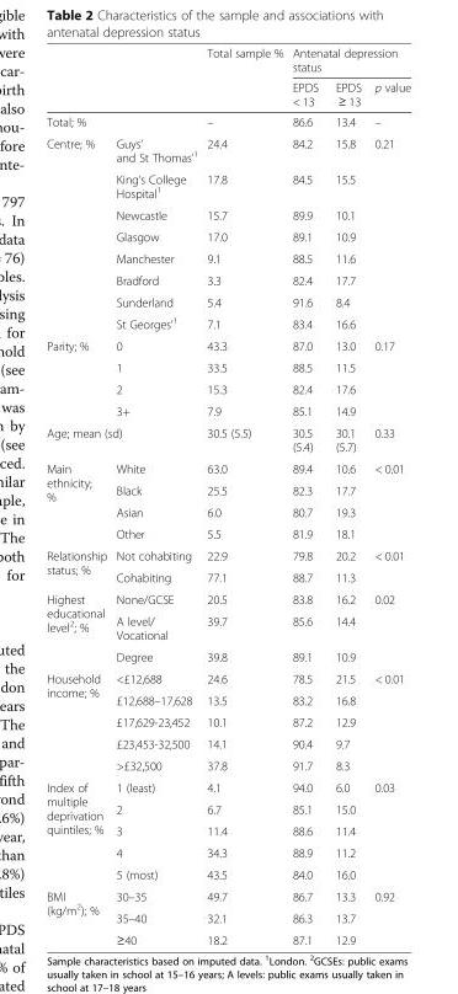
<table><thead><tr><td rowspan="2"></td><td rowspan="2"></td><td rowspan="2">Total sample %</td><td colspan="3">Antenatal depression status</td></tr><tr><td>EPDS &lt; 13</td><td>EPDS ≥ 13</td><td>p value</td></tr></thead><tbody><tr><td colspan="2">Total; %</td><td>–</td><td>86.6</td><td>13.4</td><td>–</td></tr><tr><td rowspan="8">Centre; %</td><td>Guys’ and St Thomas’<sup>1</sup></td><td>24.4</td><td>84.2</td><td>15.8</td><td rowspan="8">0.21</td></tr><tr><td>King’s College Hospital<sup>1</sup></td><td>17.8</td><td>84.5</td><td>15.5</td></tr><tr><td>Newcastle</td><td>15.7</td><td>89.9</td><td>10.1</td></tr><tr><td>Glasgow</td><td>17.0</td><td>89.1</td><td>10.9</td></tr><tr><td>Manchester</td><td>9.1</td><td>88.5</td><td>11.6</td></tr><tr><td>Bradford</td><td>3.3</td><td>82.4</td><td>17.7</td></tr><tr><td>Sunderland</td><td>5.4</td><td>91.6</td><td>8.4</td></tr><tr><td>St Georges’<sup>1</sup></td><td>7.1</td><td>83.4</td><td>16.6</td></tr><tr><td rowspan="4">Parity; %</td><td>0</td><td>43.3</td><td>87.0</td><td>13.0</td><td rowspan="4">0.17</td></tr><tr><td>1</td><td>33.5</td><td>88.5</td><td>11.5</td></tr><tr><td>2</td><td>15.3</td><td>82.4</td><td>17.6</td></tr><tr><td>3+</td><td>7.9</td><td>85.1</td><td>14.9</td></tr><tr><td colspan="2">Age; mean (sd)</td><td>30.5 (5.5)</td><td>30.5 (5.4)</td><td>30.1 (5.7)</td><td>0.33</td></tr><tr><td rowspan="4">Main ethnicity; %</td><td>White</td><td>63.0</td><td>89.4</td><td>10.6</td><td rowspan="4">&lt; 0.01</td></tr><tr><td>Black</td><td>25.5</td><td>82.3</td><td>17.7</td></tr><tr><td>Asian</td><td>6.0</td><td>80.7</td><td>19.3</td></tr><tr><td>Other</td><td>5.5</td><td>81.9</td><td>18.1</td></tr><tr><td rowspan="2">Relationship status; %</td><td>Not cohabiting</td><td>22.9</td><td>79.8</td><td>20.2</td><td rowspan="2">&lt; 0.01</td></tr><tr><td>Cohabiting</td><td>77.1</td><td>88.7</td><td>11.3</td></tr><tr><td rowspan="3">Highest educational level<sup>2</sup>; %</td><td>None/GCSE</td><td>20.5</td><td>83.8</td><td>16.2</td><td rowspan="3">0.02</td></tr><tr><td>A level/ Vocational</td><td>39.7</td><td>85.6</td><td>14.4</td></tr><tr><td>Degree</td><td>39.8</td><td>89.1</td><td>10.9</td></tr><tr><td rowspan="5">Household income; %</td><td>&lt;£12,688</td><td>24.6</td><td>78.5</td><td>21.5</td><td rowspan="5">&lt; 0.01</td></tr><tr><td>£12,688–17,628</td><td>13.5</td><td>83.2</td><td>16.8</td></tr><tr><td>£17,629-23,452</td><td>10.1</td><td>87.2</td><td>12.9</td></tr><tr><td>£23,453-32,500</td><td>14.1</td><td>90.4</td><td>9.7</td></tr><tr><td>&gt;£32,500</td><td>37.8</td><td>91.7</td><td>8.3</td></tr><tr><td rowspan="5">Index of multiple deprivation quintiles; %</td><td>1 (least)</td><td>4.1</td><td>94.0</td><td>6.0</td><td rowspan="5">0.03</td></tr><tr><td>2</td><td>6.7</td><td>85.1</td><td>15.0</td></tr><tr><td>3</td><td>11.4</td><td>88.6</td><td>11.4</td></tr><tr><td>4</td><td>34.3</td><td>88.9</td><td>11.2</td></tr><tr><td>5 (most)</td><td>43.5</td><td>84.0</td><td>16.0</td></tr><tr><td rowspan="3">BMI (kg/m<sup>2</sup>); %</td><td>30–35</td><td>49.7</td><td>86.7</td><td>13.3</td><td rowspan="3">0.92</td></tr><tr><td>35–40</td><td>32.1</td><td>86.3</td><td>13.7</td></tr><tr><td>≥40</td><td>18.2</td><td>87.1</td><td>12.9</td></tr></tbody></table>